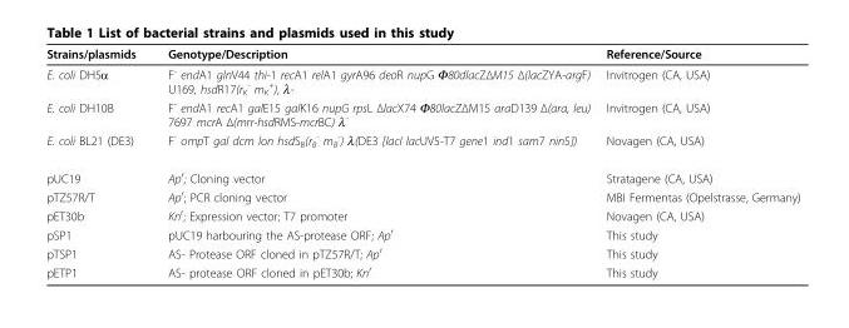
<table><thead><tr><td>Strains/plasmids</td><td>Genotype/Description</td><td>Reference/Source</td></tr></thead><tbody><tr><td>E. coli DH5α</td><td>F<sup>-</sup> endA1 glnV44 thi-1 recA1 relA1 gyrA96 deoR nupG Φ80dlacZΔM15 Δ(lacZYA-argF) U169, hsdR17(r<sub>K</sub> <sup>-</sup> m<sub>K</sub> <sup>+</sup>), λ-</td><td>Invitrogen (CA, USA)</td></tr><tr><td>E. coli DH10B</td><td>F<sup>-</sup> endA1 recA1 galE15 galK16 nupG rpsL ΔlacX74 Φ80lacZΔM15 araD139 Δ(ara, leu) 7697 mcrA Δ(mrr-hsdRMS-mcrBC) λ<sup>-</sup></td><td>Invitrogen (CA, USA)</td></tr><tr><td>E. coli BL21 (DE3)</td><td>F<sup>-</sup> ompT gal dcm lon hsdS<sub>B</sub>(r<sub>B</sub> <sup>-</sup> m<sub>B</sub> <sup>-</sup>) λ(DE3 [lacI lacUV5-T7 gene1 ind1 sam7 nin5])</td><td>Novagen (CA, USA)</td></tr><tr><td>pUC19</td><td>Ap<sup>r</sup>; Cloning vector</td><td>Stratagene (CA, USA)</td></tr><tr><td>pTZ57R/T</td><td>Ap<sup>r</sup>; PCR cloning vector</td><td>MBI Fermentas (Opelstrasse, Germany)</td></tr><tr><td>pET30b</td><td>Kn<sup>r</sup>; Expression vector; T7 promoter</td><td>Novagen (CA, USA)</td></tr><tr><td>pSP1</td><td>pUC19 harbouring the AS-protease ORF; Ap<sup>r</sup></td><td>This study</td></tr><tr><td>pTSP1</td><td>AS- Protease ORF cloned in pTZ57R/T; Ap<sup>r</sup></td><td>This study</td></tr><tr><td>pETP1</td><td>AS- protease ORF cloned in pET30b; Kn<sup>r</sup></td><td>This study</td></tr></tbody></table>